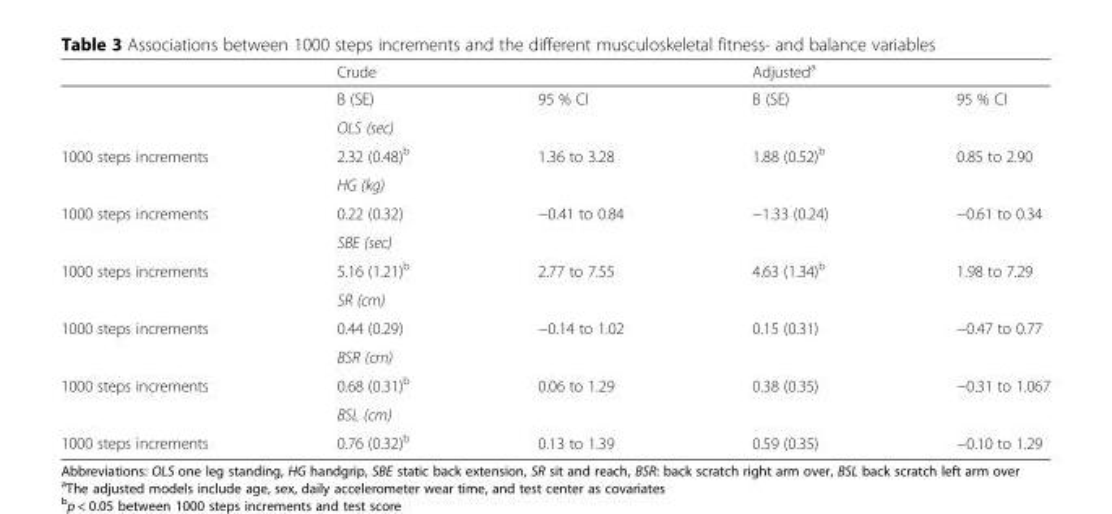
<table><thead><tr><td></td><td>Crude</td><td></td><td>Adjusted<sup>a</sup></td><td></td></tr></thead><tbody><tr><td></td><td>B (SE)</td><td>95 % CI</td><td>B (SE)</td><td>95 % CI</td></tr><tr><td></td><td colspan="4">OLS (sec)</td></tr><tr><td rowspan="2">1000 steps increments</td><td>2.32 (0.48)<sup>b</sup></td><td>1.36 to 3.28</td><td>1.88 (0.52)<sup>b</sup></td><td>0.85 to 2.90</td></tr><tr><td colspan="4">HG (kg)</td></tr><tr><td rowspan="2">1000 steps increments</td><td>0.22 (0.32)</td><td>−0.41 to 0.84</td><td>−1.33 (0.24)</td><td>−0.61 to 0.34</td></tr><tr><td colspan="4">SBE (sec)</td></tr><tr><td rowspan="2">1000 steps increments</td><td>5.16 (1.21)<sup>b</sup></td><td>2.77 to 7.55</td><td>4.63 (1.34)<sup>b</sup></td><td>1.98 to 7.29</td></tr><tr><td colspan="4">SR (cm)</td></tr><tr><td rowspan="2">1000 steps increments</td><td>0.44 (0.29)</td><td>−0.14 to 1.02</td><td>0.15 (0.31)</td><td>−0.47 to 0.77</td></tr><tr><td colspan="4">BSR (cm)</td></tr><tr><td rowspan="2">1000 steps increments</td><td>0.68 (0.31)<sup>b</sup></td><td>0.06 to 1.29</td><td>0.38 (0.35)</td><td>−0.31 to 1.067</td></tr><tr><td colspan="4">BSL (cm)</td></tr><tr><td>1000 steps increments</td><td>0.76 (0.32)<sup>b</sup></td><td>0.13 to 1.39</td><td>0.59 (0.35)</td><td>−0.10 to 1.29</td></tr></tbody></table>